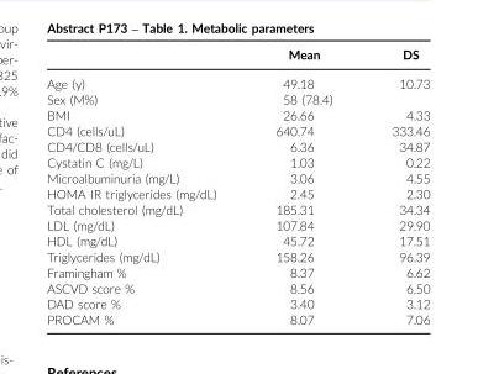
<table><thead><tr><td></td><td>Mean</td><td>DS</td></tr></thead><tbody><tr><td>Age (y)</td><td>49.18</td><td>10.73</td></tr><tr><td>Sex (M%)</td><td>58 (78.4)</td><td></td></tr><tr><td>BMI</td><td>26.66</td><td>4.33</td></tr><tr><td>CD4 (cells/uL)</td><td>640.74</td><td>333.46</td></tr><tr><td>CD4/CD8 (cells/uL)</td><td>6.36</td><td>34.87</td></tr><tr><td>Cystatin C (mg/L)</td><td>1.03</td><td>0.22</td></tr><tr><td>Microalbuminuria (mg/L)</td><td>3.06</td><td>4.55</td></tr><tr><td>HOMA IR triglycerides (mg/dL)</td><td>2.45</td><td>2.30</td></tr><tr><td>Total cholesterol (mg/dL)</td><td>185.31</td><td>34.34</td></tr><tr><td>LDL (mg/dL)</td><td>107.84</td><td>29.90</td></tr><tr><td>HDL (mg/dL)</td><td>45.72</td><td>17.51</td></tr><tr><td>Triglycerides (mg/dL)</td><td>158.26</td><td>96.39</td></tr><tr><td>Framingham %</td><td>8.37</td><td>6.62</td></tr><tr><td>ASCVD score %</td><td>8.56</td><td>6.50</td></tr><tr><td>DAD score %</td><td>3.40</td><td>3.12</td></tr><tr><td>PROCAM %</td><td>8.07</td><td>7.06</td></tr></tbody></table>